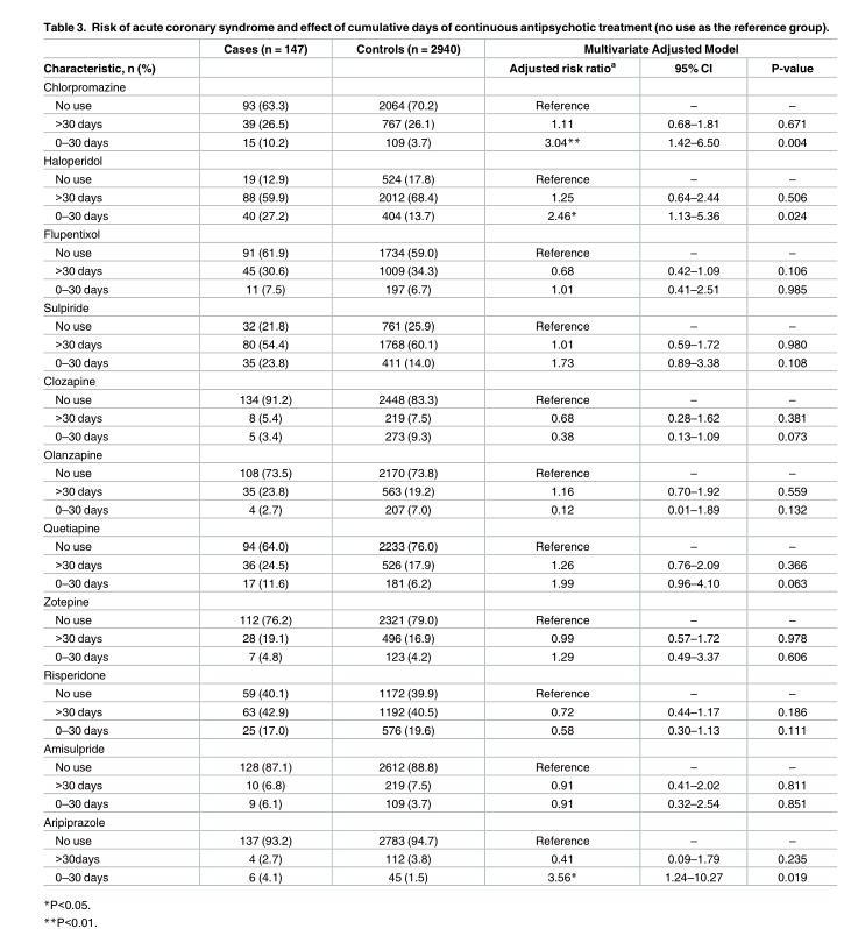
<table><thead><tr><td rowspan="2">Characteristic, n (%)</td><td rowspan="2">Cases (n = 147)</td><td rowspan="2">Controls (n = 2940)</td><td colspan="3">Multivariate Adjusted Model</td></tr><tr><td>Adjusted risk ratio<sup>a</sup></td><td>95% CI</td><td>P-value</td></tr></thead><tbody><tr><td colspan="6">Chlorpromazine</td></tr><tr><td>No use</td><td>93 (63.3)</td><td>2064 (70.2)</td><td>Reference</td><td>–</td><td>–</td></tr><tr><td>&gt;30 days</td><td>39 (26.5)</td><td>767 (26.1)</td><td>1.11</td><td>0.68–1.81</td><td>0.671</td></tr><tr><td>0–30 days</td><td>15 (10.2)</td><td>109 (3.7)</td><td>3.04**</td><td>1.42–6.50</td><td>0.004</td></tr><tr><td colspan="6">Haloperidol</td></tr><tr><td>No use</td><td>19 (12.9)</td><td>524 (17.8)</td><td>Reference</td><td>–</td><td>–</td></tr><tr><td>&gt;30 days</td><td>88 (59.9)</td><td>2012 (68.4)</td><td>1.25</td><td>0.64–2.44</td><td>0.506</td></tr><tr><td>0–30 days</td><td>40 (27.2)</td><td>404 (13.7)</td><td>2.46*</td><td>1.13–5.36</td><td>0.024</td></tr><tr><td colspan="6">Flupentixol</td></tr><tr><td>No use</td><td>91 (61.9)</td><td>1734 (59.0)</td><td>Reference</td><td>–</td><td>–</td></tr><tr><td>&gt;30 days</td><td>45 (30.6)</td><td>1009 (34.3)</td><td>0.68</td><td>0.42–1.09</td><td>0.106</td></tr><tr><td>0–30 days</td><td>11 (7.5)</td><td>197 (6.7)</td><td>1.01</td><td>0.41–2.51</td><td>0.985</td></tr><tr><td colspan="6">Sulpiride</td></tr><tr><td>No use</td><td>32 (21.8)</td><td>761 (25.9)</td><td>Reference</td><td>–</td><td>–</td></tr><tr><td>&gt;30 days</td><td>80 (54.4)</td><td>1768 (60.1)</td><td>1.01</td><td>0.59–1.72</td><td>0.980</td></tr><tr><td>0–30 days</td><td>35 (23.8)</td><td>411 (14.0)</td><td>1.73</td><td>0.89–3.38</td><td>0.108</td></tr><tr><td colspan="6">Clozapine</td></tr><tr><td>No use</td><td>134 (91.2)</td><td>2448 (83.3)</td><td>Reference</td><td>–</td><td>–</td></tr><tr><td>&gt;30 days</td><td>8 (5.4)</td><td>219 (7.5)</td><td>0.68</td><td>0.28–1.62</td><td>0.381</td></tr><tr><td>0–30 days</td><td>5 (3.4)</td><td>273 (9.3)</td><td>0.38</td><td>0.13–1.09</td><td>0.073</td></tr><tr><td colspan="6">Olanzapine</td></tr><tr><td>No use</td><td>108 (73.5)</td><td>2170 (73.8)</td><td>Reference</td><td>–</td><td>–</td></tr><tr><td>&gt;30 days</td><td>35 (23.8)</td><td>563 (19.2)</td><td>1.16</td><td>0.70–1.92</td><td>0.559</td></tr><tr><td>0–30 days</td><td>4 (2.7)</td><td>207 (7.0)</td><td>0.12</td><td>0.01–1.89</td><td>0.132</td></tr><tr><td colspan="6">Quetiapine</td></tr><tr><td>No use</td><td>94 (64.0)</td><td>2233 (76.0)</td><td>Reference</td><td>–</td><td>–</td></tr><tr><td>&gt;30 days</td><td>36 (24.5)</td><td>526 (17.9)</td><td>1.26</td><td>0.76–2.09</td><td>0.366</td></tr><tr><td>0–30 days</td><td>17 (11.6)</td><td>181 (6.2)</td><td>1.99</td><td>0.96–4.10</td><td>0.063</td></tr><tr><td colspan="6">Zotepine</td></tr><tr><td>No use</td><td>112 (76.2)</td><td>2321 (79.0)</td><td>Reference</td><td>–</td><td>–</td></tr><tr><td>&gt;30 days</td><td>28 (19.1)</td><td>496 (16.9)</td><td>0.99</td><td>0.57–1.72</td><td>0.978</td></tr><tr><td>0–30 days</td><td>7 (4.8)</td><td>123 (4.2)</td><td>1.29</td><td>0.49–3.37</td><td>0.606</td></tr><tr><td colspan="6">Risperidone</td></tr><tr><td>No use</td><td>59 (40.1)</td><td>1172 (39.9)</td><td>Reference</td><td>–</td><td>–</td></tr><tr><td>&gt;30 days</td><td>63 (42.9)</td><td>1192 (40.5)</td><td>0.72</td><td>0.44–1.17</td><td>0.186</td></tr><tr><td>0–30 days</td><td>25 (17.0)</td><td>576 (19.6)</td><td>0.58</td><td>0.30–1.13</td><td>0.111</td></tr><tr><td colspan="6">Amisulpride</td></tr><tr><td>No use</td><td>128 (87.1)</td><td>2612 (88.8)</td><td>Reference</td><td>–</td><td>–</td></tr><tr><td>&gt;30 days</td><td>10 (6.8)</td><td>219 (7.5)</td><td>0.91</td><td>0.41–2.02</td><td>0.811</td></tr><tr><td>0–30 days</td><td>9 (6.1)</td><td>109 (3.7)</td><td>0.91</td><td>0.32–2.54</td><td>0.851</td></tr><tr><td colspan="6">Aripiprazole</td></tr><tr><td>No use</td><td>137 (93.2)</td><td>2783 (94.7)</td><td>Reference</td><td>–</td><td>–</td></tr><tr><td>&gt;30days</td><td>4 (2.7)</td><td>112 (3.8)</td><td>0.41</td><td>0.09–1.79</td><td>0.235</td></tr><tr><td>0–30 days</td><td>6 (4.1)</td><td>45 (1.5)</td><td>3.56*</td><td>1.24–10.27</td><td>0.019</td></tr></tbody></table>